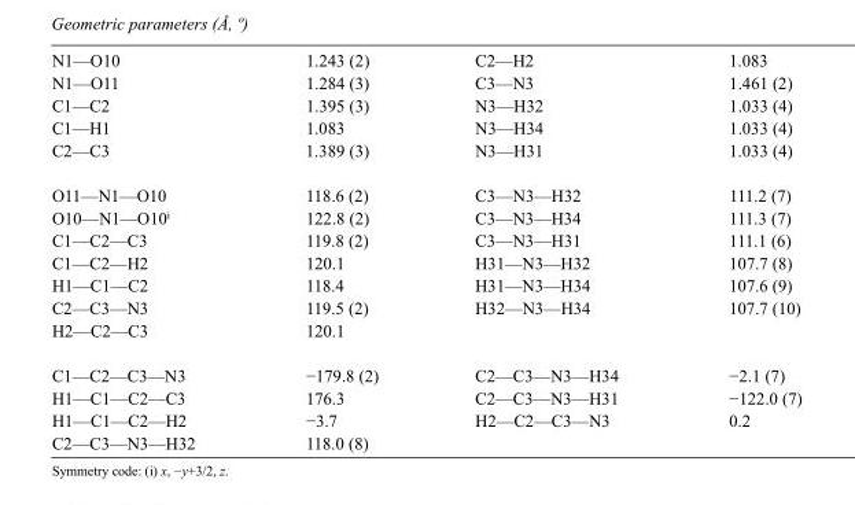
<table><tbody><tr><td>N1—O10</td><td>1.243 (2)</td><td>C2—H2</td><td>1.083</td></tr><tr><td>N1—O11</td><td>1.284 (3)</td><td>C3—N3</td><td>1.461 (2)</td></tr><tr><td>C1—C2</td><td>1.395 (3)</td><td>N3—H32</td><td>1.033 (4)</td></tr><tr><td>C1—H1</td><td>1.083</td><td>N3—H34</td><td>1.033 (4)</td></tr><tr><td>C2—C3</td><td>1.389 (3)</td><td>N3—H31</td><td>1.033 (4)</td></tr><tr><td>O11—N1—O10</td><td>118.6 (2)</td><td>C3—N3—H32</td><td>111.2 (7)</td></tr><tr><td>O10—N1—O10<sup>i</sup></td><td>122.8 (2)</td><td>C3—N3—H34</td><td>111.3 (7)</td></tr><tr><td>C1—C2—C3</td><td>119.8 (2)</td><td>C3—N3—H31</td><td>111.1 (6)</td></tr><tr><td>C1—C2—H2</td><td>120.1</td><td>H31—N3—H32</td><td>107.7 (8)</td></tr><tr><td>H1—C1—C2</td><td>118.4</td><td>H31—N3—H34</td><td>107.6 (9)</td></tr><tr><td>C2—C3—N3</td><td>119.5 (2)</td><td>H32—N3—H34</td><td>107.7 (10)</td></tr><tr><td>H2—C2—C3</td><td>120.1</td><td></td><td></td></tr><tr><td>C1—C2—C3—N3</td><td>−179.8 (2)</td><td>C2—C3—N3—H34</td><td>−2.1 (7)</td></tr><tr><td>H1—C1—C2—C3</td><td>176.3</td><td>C2—C3—N3—H31</td><td>−122.0 (7)</td></tr><tr><td>H1—C1—C2—H2</td><td>−3.7</td><td>H2—C2—C3—N3</td><td>0.2</td></tr><tr><td>C2—C3—N3—H32</td><td>118.0 (8)</td><td></td><td></td></tr></tbody></table>